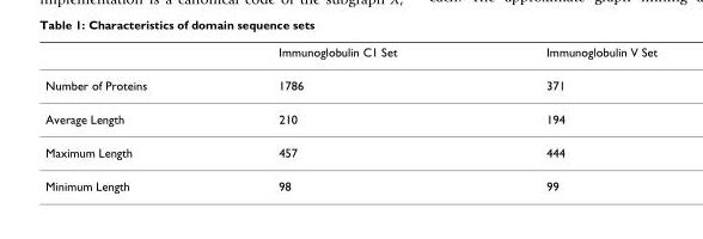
<table><thead><tr><td></td><td>Immunoglobulin C1 Set</td><td>Immunoglobulin V Set</td></tr></thead><tbody><tr><td>Number of Proteins</td><td>1786</td><td>371</td></tr><tr><td>Average Length</td><td>210</td><td>194</td></tr><tr><td>Maximum Length</td><td>457</td><td>444</td></tr><tr><td>Minimum Length</td><td>98</td><td>99</td></tr></tbody></table>